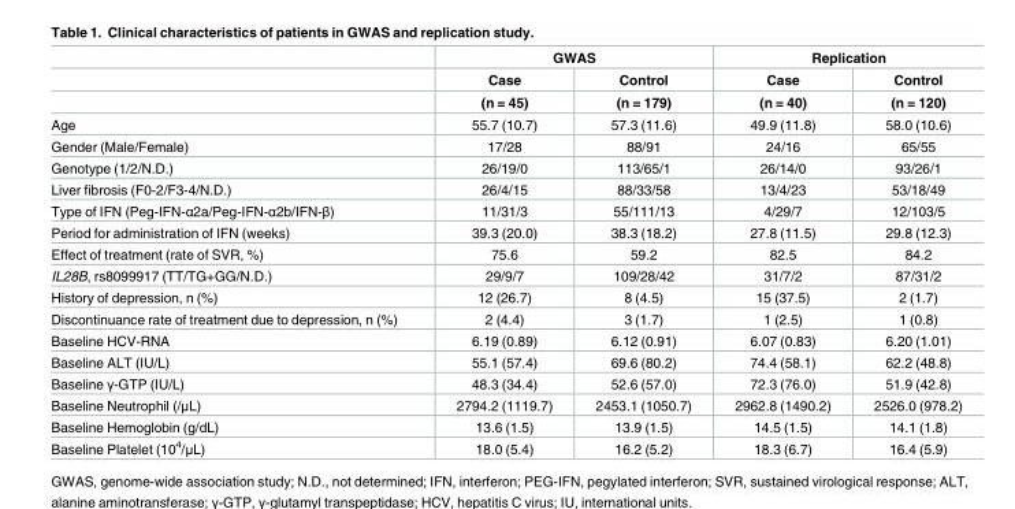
<table><thead><tr><td rowspan="3"></td><td colspan="2">GWAS</td><td colspan="2">Replication</td></tr><tr><td rowspan="2">Case (n = 45)</td><td rowspan="2">Control (n = 179)</td><td rowspan="2">Case (n = 40)</td><td rowspan="2">Control (n = 120)</td></tr><tr></tr></thead><tbody><tr><td>Age</td><td>55.7 (10.7)</td><td>57.3 (11.6)</td><td>49.9 (11.8)</td><td>58.0 (10.6)</td></tr><tr><td>Gender (Male/Female)</td><td>17/28</td><td>88/91</td><td>24/16</td><td>65/55</td></tr><tr><td>Genotype (1/2/N.D.)</td><td>26/19/0</td><td>113/65/1</td><td>26/14/0</td><td>93/26/1</td></tr><tr><td>Liver fibrosis (F0-2/F3-4/N.D.)</td><td>26/4/15</td><td>88/33/58</td><td>13/4/23</td><td>53/18/49</td></tr><tr><td>Type of IFN (Peg-IFN-α2a/Peg-IFN-α2b/IFN-β)</td><td>11/31/3</td><td>55/111/13</td><td>4/29/7</td><td>12/103/5</td></tr><tr><td>Period for administration of IFN (weeks)</td><td>39.3 (20.0)</td><td>38.3 (18.2)</td><td>27.8 (11.5)</td><td>29.8 (12.3)</td></tr><tr><td>Effect of treatment (rate of SVR, %)</td><td>75.6</td><td>59.2</td><td>82.5</td><td>84.2</td></tr><tr><td>IL28B, rs8099917 (TT/TG+GG/N.D.)</td><td>29/9/7</td><td>109/28/42</td><td>31/7/2</td><td>87/31/2</td></tr><tr><td>History of depression, n (%)</td><td>12 (26.7)</td><td>8 (4.5)</td><td>15 (37.5)</td><td>2 (1.7)</td></tr><tr><td>Discontinuance rate of treatment due to depression, n (%)</td><td>2 (4.4)</td><td>3 (1.7)</td><td>1 (2.5)</td><td>1 (0.8)</td></tr><tr><td>Baseline HCV-RNA</td><td>6.19 (0.89)</td><td>6.12 (0.91)</td><td>6.07 (0.83)</td><td>6.20 (1.01)</td></tr><tr><td>Baseline ALT (IU/L)</td><td>55.1 (57.4)</td><td>69.6 (80.2)</td><td>74.4 (58.1)</td><td>62.2 (48.8)</td></tr><tr><td>Baseline γ-GTP (IU/L)</td><td>48.3 (34.4)</td><td>52.6 (57.0)</td><td>72.3 (76.0)</td><td>51.9 (42.8)</td></tr><tr><td>Baseline Neutrophil (/μL)</td><td>2794.2 (1119.7)</td><td>2453.1 (1050.7)</td><td>2962.8 (1490.2)</td><td>2526.0 (978.2)</td></tr><tr><td>Baseline Hemoglobin (g/dL)</td><td>13.6 (1.5)</td><td>13.9 (1.5)</td><td>14.5 (1.5)</td><td>14.1 (1.8)</td></tr><tr><td>Baseline Platelet (10<sup>4</sup>/μL)</td><td>18.0 (5.4)</td><td>16.2 (5.2)</td><td>18.3 (6.7)</td><td>16.4 (5.9)</td></tr></tbody></table>